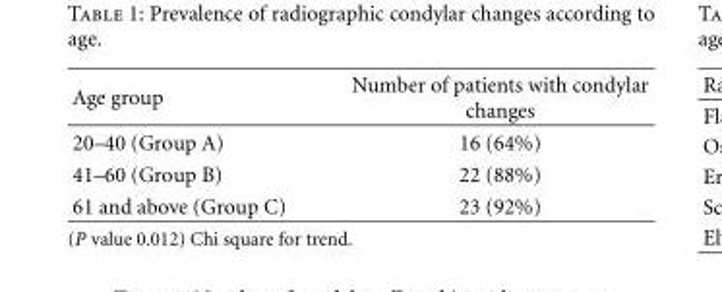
<table><thead><tr><td>Age group</td><td>Number of patients with condylar changes</td></tr></thead><tbody><tr><td>20–40 (Group A)</td><td>16 (64%)</td></tr><tr><td>41–60 (Group B)</td><td>22 (88%)</td></tr><tr><td>61 and above (Group C)</td><td>23 (92%)</td></tr></tbody></table>